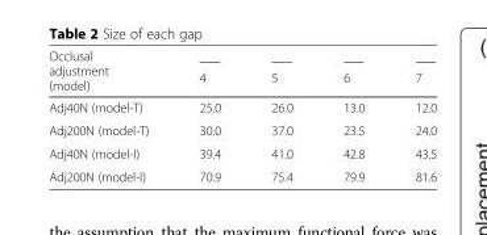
<table><thead><tr><td rowspan="2">Occlusal adjustment (model)</td><td rowspan="2">___ 4</td><td rowspan="2">___ 5</td><td rowspan="2">___ 6</td><td rowspan="2">___ 7</td></tr><tr></tr></thead><tbody><tr><td>Adj40N (model-T)</td><td>25.0</td><td>26.0</td><td>13.0</td><td>12.0</td></tr><tr><td>Adj200N (model-T)</td><td>30.0</td><td>37.0</td><td>23.5</td><td>24.0</td></tr><tr><td>Adj40N (model-I)</td><td>39.4</td><td>41.0</td><td>42.8</td><td>43.5</td></tr><tr><td>Adj200N (model-I)</td><td>70.9</td><td>75.4</td><td>79.9</td><td>81.6</td></tr></tbody></table>